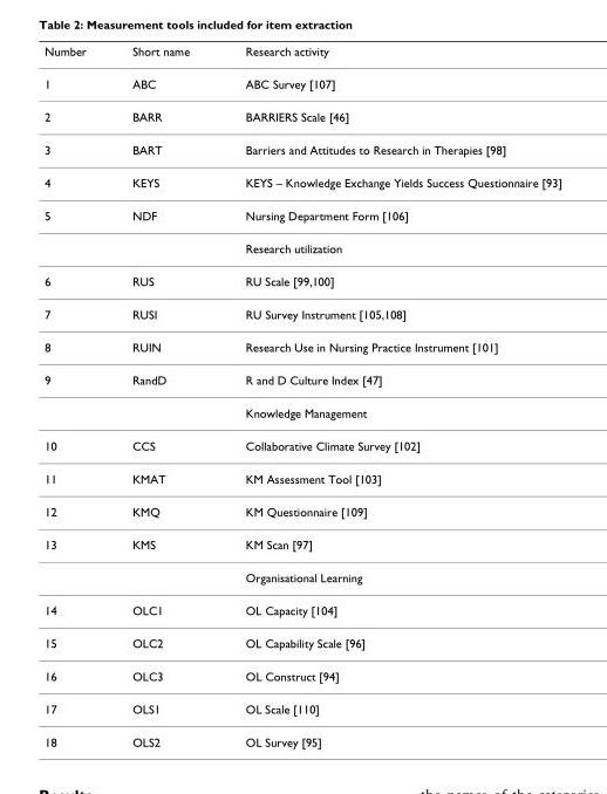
<table><thead><tr><td>Number</td><td>Short name</td><td>Research activity</td></tr></thead><tbody><tr><td>1</td><td>ABC</td><td>ABC Survey [107]</td></tr><tr><td>2</td><td>BARR</td><td>BARRIERS Scale [46]</td></tr><tr><td>3</td><td>BART</td><td>Barriers and Attitudes to Research in Therapies [98]</td></tr><tr><td>4</td><td>KEYS</td><td>KEYS – Knowledge Exchange Yields Success Questionnaire [93]</td></tr><tr><td rowspan="2">5</td><td>NDF</td><td>Nursing Department Form [106]</td></tr><tr><td></td><td>Research utilization</td></tr><tr><td>6</td><td>RUS</td><td>RU Scale [99,100]</td></tr><tr><td>7</td><td>RUSI</td><td>RU Survey Instrument [105,108]</td></tr><tr><td>8</td><td>RUIN</td><td>Research Use in Nursing Practice Instrument [101]</td></tr><tr><td rowspan="2">9</td><td>RandD</td><td>R and D Culture Index [47]</td></tr><tr><td></td><td>Knowledge Management</td></tr><tr><td>10</td><td>CCS</td><td>Collaborative Climate Survey [102]</td></tr><tr><td>11</td><td>KMAT</td><td>KM Assessment Tool [103]</td></tr><tr><td>12</td><td>KMQ</td><td>KM Questionnaire [109]</td></tr><tr><td rowspan="2">13</td><td>KMS</td><td>KM Scan [97]</td></tr><tr><td></td><td>Organisational Learning</td></tr><tr><td>14</td><td>OLC1</td><td>OL Capacity [104]</td></tr><tr><td>15</td><td>OLC2</td><td>OL Capability Scale [96]</td></tr><tr><td>16</td><td>OLC3</td><td>OL Construct [94]</td></tr><tr><td>17</td><td>OLS1</td><td>OL Scale [110]</td></tr><tr><td>18</td><td>OLS2</td><td>OL Survey [95]</td></tr></tbody></table>